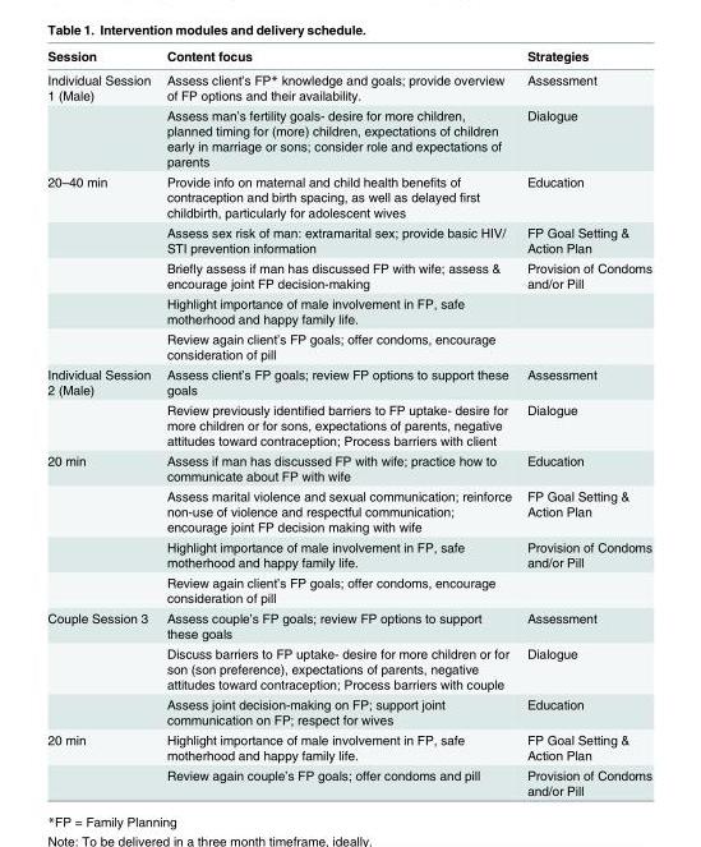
<table><thead><tr><td>Session</td><td>Content focus</td><td>Strategies</td></tr></thead><tbody><tr><td rowspan="2">Individual Session 1 (Male)</td><td>Assess client’s FP* knowledge and goals; provide overview of FP options and their availability.</td><td>Assessment</td></tr><tr><td>Assess man’s fertility goals- desire for more children, planned timing for (more) children, expectations of children early in marriage or sons; consider role and expectations of parents</td><td>Dialogue</td></tr><tr><td rowspan="5">20–40 min</td><td>Provide info on maternal and child health benefits of contraception and birth spacing, as well as delayed first childbirth, particularly for adolescent wives</td><td>Education</td></tr><tr><td>Assess sex risk of man: extramarital sex; provide basic HIV/ STI prevention information</td><td>FP Goal Setting &amp; Action Plan</td></tr><tr><td>Briefly assess if man has discussed FP with wife; assess &amp; encourage joint FP decision-making</td><td>Provision of Condoms and/or Pill</td></tr><tr><td>Highlight importance of male involvement in FP, safe motherhood and happy family life.</td><td></td></tr><tr><td>Review again client’s FP goals; offer condoms, encourage consideration of pill</td><td></td></tr><tr><td rowspan="2">Individual Session 2 (Male)</td><td>Assess client’s FP goals; review FP options to support these goals</td><td>Assessment</td></tr><tr><td>Review previously identified barriers to FP uptake- desire for more children or for sons, expectations of parents, negative attitudes toward contraception; Process barriers with client</td><td>Dialogue</td></tr><tr><td rowspan="4">20 min</td><td>Assess if man has discussed FP with wife; practice how to communicate about FP with wife</td><td>Education</td></tr><tr><td>Assess marital violence and sexual communication; reinforce non-use of violence and respectful communication; encourage joint FP decision making with wife</td><td>FP Goal Setting &amp; Action Plan</td></tr><tr><td>Highlight importance of male involvement in FP, safe motherhood and happy family life.</td><td>Provision of Condoms and/or Pill</td></tr><tr><td>Review again client’s FP goals; offer condoms, encourage consideration of pill</td><td></td></tr><tr><td rowspan="3">Couple Session 3</td><td>Assess couple’s FP goals; review FP options to support these goals</td><td>Assessment</td></tr><tr><td>Discuss barriers to FP uptake- desire for more children or for son (son preference), expectations of parents, negative attitudes toward contraception; Process barriers with couple</td><td>Dialogue</td></tr><tr><td>Assess joint decision-making on FP; support joint communication on FP; respect for wives</td><td>Education</td></tr><tr><td rowspan="2">20 min</td><td>Highlight importance of male involvement in FP, safe motherhood and happy family life.</td><td>FP Goal Setting &amp; Action Plan</td></tr><tr><td>Review again couple’s FP goals; offer condoms and pill</td><td>Provision of Condoms and/or Pill</td></tr></tbody></table>